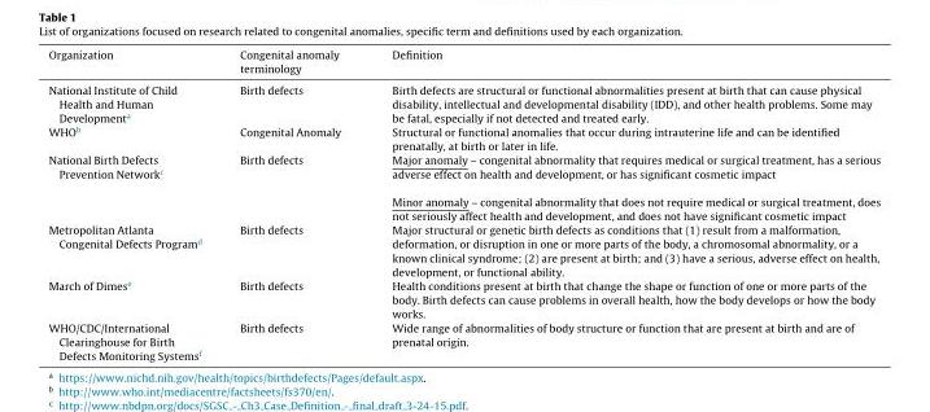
<table><thead><tr><td>Organization</td><td>Congenital anomaly terminology</td><td>Definition</td></tr></thead><tbody><tr><td>National Institute of Child Health and Human Development<sup>a</sup></td><td>Birth defects</td><td>Birth defects are structural or functional abnormalities present at birth that can cause physical disability, intellectual and developmental disability (IDD), and other health problems. Some may be fatal, especially if not detected and treated early.</td></tr><tr><td>WHO<sup>b</sup></td><td>Congenital Anomaly</td><td>Structural or functional anomalies that occur during intrauterine life and can be identified prenatally, at birth or later in life.</td></tr><tr><td>National Birth Defects Prevention Network<sup>c</sup></td><td>Birth defects</td><td>Major anomaly – congenital abnormality that requires medical or surgical treatment, has a serious adverse effect on health and development, or has significant cosmetic impact Minor anomaly – congenital abnormality that does not require medical or surgical treatment, does not seriously affect health and development, and does not have significant cosmetic impact</td></tr><tr><td>Metropolitan Atlanta Congenital Defects Program<sup>d</sup></td><td>Birth defects</td><td>Major structural or genetic birth defects as conditions that (1) result from a malformation, deformation, or disruption in one or more parts of the body, a chromosomal abnormality, or a known clinical syndrome; (2) are present at birth; and (3) have a serious, adverse effect on health, development, or functional ability.</td></tr><tr><td>March of Dimes<sup>e</sup></td><td>Birth defects</td><td>Health conditions present at birth that change the shape or function of one or more parts of the body. Birth defects can cause problems in overall health, how the body develops or how the body works.</td></tr><tr><td>WHO/CDC/International Clearinghouse for Birth Defects Monitoring Systems<sup>f</sup></td><td>Birth defects</td><td>Wide range of abnormalities of body structure or function that are present at birth and are of prenatal origin.</td></tr></tbody></table>